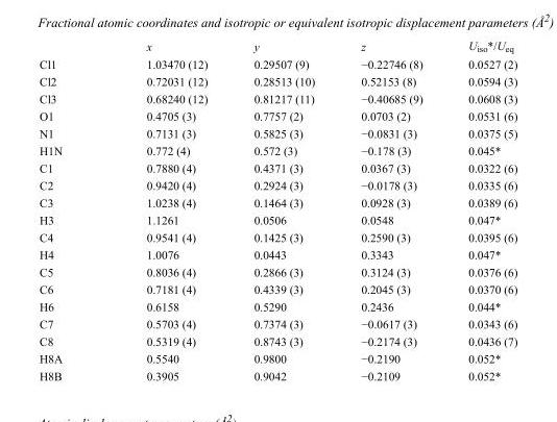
<table><thead><tr><td></td><td>x</td><td>y</td><td>z</td><td>U<sub>iso</sub>*/U<sub>eq</sub></td></tr></thead><tbody><tr><td>Cl1</td><td>1.03470 (12)</td><td>0.29507 (9)</td><td>−0.22746 (8)</td><td>0.0527 (2)</td></tr><tr><td>Cl2</td><td>0.72031 (12)</td><td>0.28513 (10)</td><td>0.52153 (8)</td><td>0.0594 (3)</td></tr><tr><td>Cl3</td><td>0.68240 (12)</td><td>0.81217 (11)</td><td>−0.40685 (9)</td><td>0.0608 (3)</td></tr><tr><td>O1</td><td>0.4705 (3)</td><td>0.7757 (2)</td><td>0.0703 (2)</td><td>0.0531 (6)</td></tr><tr><td>N1</td><td>0.7131 (3)</td><td>0.5825 (3)</td><td>−0.0831 (3)</td><td>0.0375 (5)</td></tr><tr><td>H1N</td><td>0.772 (4)</td><td>0.572 (3)</td><td>−0.178 (3)</td><td>0.045*</td></tr><tr><td>C1</td><td>0.7880 (4)</td><td>0.4371 (3)</td><td>0.0367 (3)</td><td>0.0322 (6)</td></tr><tr><td>C2</td><td>0.9420 (4)</td><td>0.2924 (3)</td><td>−0.0178 (3)</td><td>0.0335 (6)</td></tr><tr><td>C3</td><td>1.0238 (4)</td><td>0.1464 (3)</td><td>0.0928 (3)</td><td>0.0389 (6)</td></tr><tr><td>H3</td><td>1.1261</td><td>0.0506</td><td>0.0548</td><td>0.047*</td></tr><tr><td>C4</td><td>0.9541 (4)</td><td>0.1425 (3)</td><td>0.2590 (3)</td><td>0.0395 (6)</td></tr><tr><td>H4</td><td>1.0076</td><td>0.0443</td><td>0.3343</td><td>0.047*</td></tr><tr><td>C5</td><td>0.8036 (4)</td><td>0.2866 (3)</td><td>0.3124 (3)</td><td>0.0376 (6)</td></tr><tr><td>C6</td><td>0.7181 (4)</td><td>0.4339 (3)</td><td>0.2045 (3)</td><td>0.0370 (6)</td></tr><tr><td>H6</td><td>0.6158</td><td>0.5290</td><td>0.2436</td><td>0.044*</td></tr><tr><td>C7</td><td>0.5703 (4)</td><td>0.7374 (3)</td><td>−0.0617 (3)</td><td>0.0343 (6)</td></tr><tr><td>C8</td><td>0.5319 (4)</td><td>0.8743 (3)</td><td>−0.2174 (3)</td><td>0.0436 (7)</td></tr><tr><td>H8A</td><td>0.5540</td><td>0.9800</td><td>−0.2190</td><td>0.052*</td></tr><tr><td>H8B</td><td>0.3905</td><td>0.9042</td><td>−0.2109</td><td>0.052*</td></tr></tbody></table>